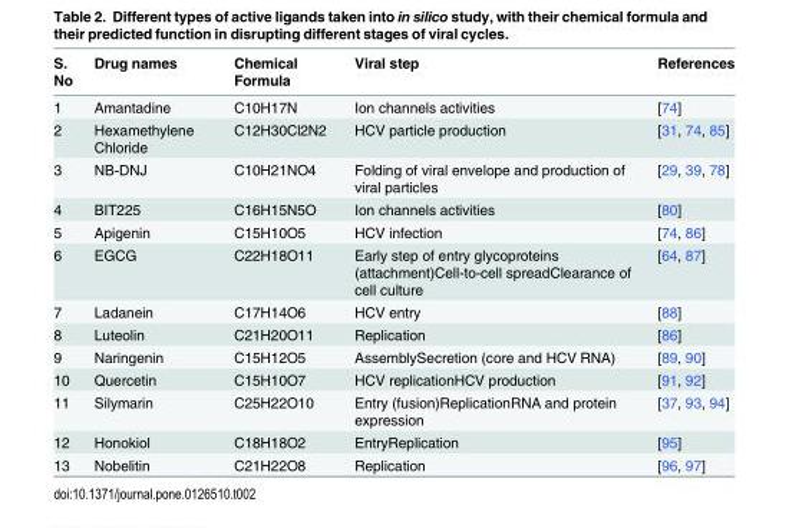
<table><thead><tr><td>S. No</td><td>Drug names</td><td>Chemical Formula</td><td>Viral step</td><td>References</td></tr></thead><tbody><tr><td>1</td><td>Amantadine</td><td>C10H17N</td><td>Ion channels activities</td><td>[74]</td></tr><tr><td>2</td><td>Hexamethylene Chloride</td><td>C12H30Cl2N2</td><td>HCV particle production</td><td>[31, 74, 85]</td></tr><tr><td>3</td><td>NB-DNJ</td><td>C10H21NO4</td><td>Folding of viral envelope and production of viral particles</td><td>[29, 39, 78]</td></tr><tr><td>4</td><td>BIT225</td><td>C16H15N5O</td><td>Ion channels activities</td><td>[80]</td></tr><tr><td>5</td><td>Apigenin</td><td>C15H10O5</td><td>HCV infection</td><td>[74, 86]</td></tr><tr><td>6</td><td>EGCG</td><td>C22H18O11</td><td>Early step of entry glycoproteins (attachment)Cell-to-cell spreadClearance of cell culture</td><td>[64, 87]</td></tr><tr><td>7</td><td>Ladanein</td><td>C17H14O6</td><td>HCV entry</td><td>[88]</td></tr><tr><td>8</td><td>Luteolin</td><td>C21H20O11</td><td>Replication</td><td>[86]</td></tr><tr><td>9</td><td>Naringenin</td><td>C15H12O5</td><td>AssemblySecretion (core and HCV RNA)</td><td>[89, 90]</td></tr><tr><td>10</td><td>Quercetin</td><td>C15H10O7</td><td>HCV replicationHCV production</td><td>[91, 92]</td></tr><tr><td>11</td><td>Silymarin</td><td>C25H22O10</td><td>Entry (fusion)ReplicationRNA and protein expression</td><td>[37, 93, 94]</td></tr><tr><td>12</td><td>Honokiol</td><td>C18H18O2</td><td>EntryReplication</td><td>[95]</td></tr><tr><td>13</td><td>Nobelitin</td><td>C21H22O8</td><td>Replication</td><td>[96, 97]</td></tr></tbody></table>